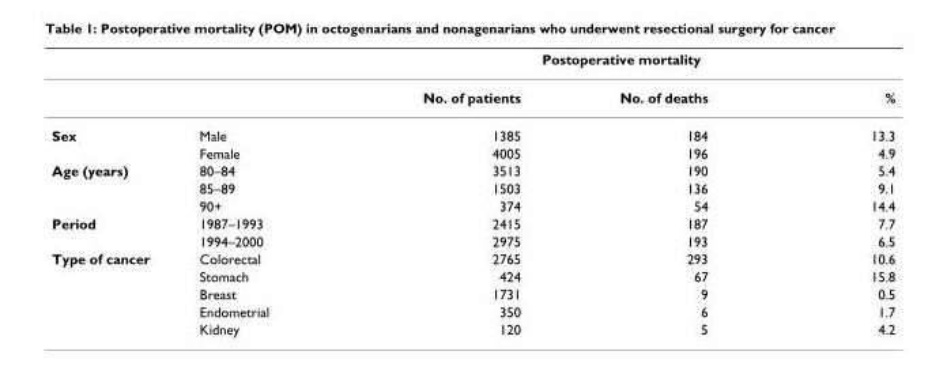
<table><thead><tr><td rowspan="2"></td><td rowspan="2"></td><td colspan="3">Postoperative mortality</td></tr><tr><td>No. of patients</td><td>No. of deaths</td><td>%</td></tr></thead><tbody><tr><td rowspan="2">Sex</td><td>Male</td><td>1385</td><td>184</td><td>13.3</td></tr><tr><td>Female</td><td>4005</td><td>196</td><td>4.9</td></tr><tr><td rowspan="3">Age (years)</td><td>80–84</td><td>3513</td><td>190</td><td>5.4</td></tr><tr><td>85–89</td><td>1503</td><td>136</td><td>9.1</td></tr><tr><td>90+</td><td>374</td><td>54</td><td>14.4</td></tr><tr><td rowspan="2">Period</td><td>1987–1993</td><td>2415</td><td>187</td><td>7.7</td></tr><tr><td>1994–2000</td><td>2975</td><td>193</td><td>6.5</td></tr><tr><td rowspan="5">Type of cancer</td><td>Colorectal</td><td>2765</td><td>293</td><td>10.6</td></tr><tr><td>Stomach</td><td>424</td><td>67</td><td>15.8</td></tr><tr><td>Breast</td><td>1731</td><td>9</td><td>0.5</td></tr><tr><td>Endometrial</td><td>350</td><td>6</td><td>1.7</td></tr><tr><td>Kidney</td><td>120</td><td>5</td><td>4.2</td></tr></tbody></table>